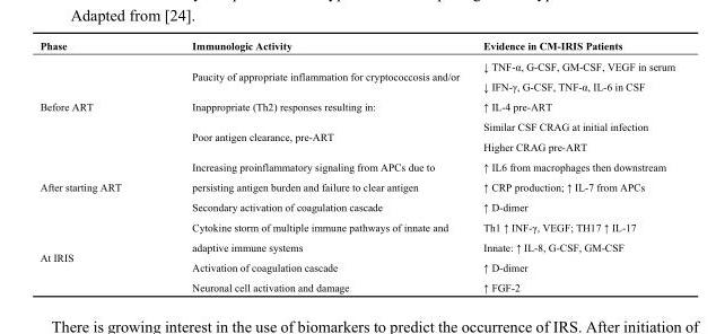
<table><thead><tr><td>Phase</td><td>Immunologic Activity</td><td>Evidence in CM-IRIS Patients</td></tr></thead><tbody><tr><td rowspan="3">Before ART</td><td>Paucity of appropriate inflammation for cryptococcosis and/or</td><td>↓ TNF-α, G-CSF, GM-CSF, VEGF in serum ↓ IFN-γ, G-CSF, TNF-α, IL-6 in CSF</td></tr><tr><td>Inappropriate (Th2) responses resulting in:</td><td>↑ IL-4 pre-ART</td></tr><tr><td>Poor antigen clearance, pre-ART</td><td>Similar CSF CRAG at initial infection Higher CRAG pre-ART</td></tr><tr><td rowspan="2">After starting ART</td><td>Increasing proinflammatory signaling from APCs due to persisting antigen burden and failure to clear antigen</td><td>↑ IL6 from macrophages then downstream ↑ CRP production; ↑ IL-7 from APCs</td></tr><tr><td>Secondary activation of coagulation cascade</td><td>↑ D-dimer</td></tr><tr><td rowspan="3">At IRIS</td><td>Cytokine storm of multiple immune pathways of innate and adaptive immune systems</td><td>Th1 ↑ INF-γ, VEGF; TH17 ↑ IL-17 Innate: ↑ IL-8, G-CSF, GM-CSF</td></tr><tr><td>Activation of coagulation cascade</td><td>↑ D-dimer</td></tr><tr><td>Neuronal cell activation and damage</td><td>↑ FGF-2</td></tr></tbody></table>